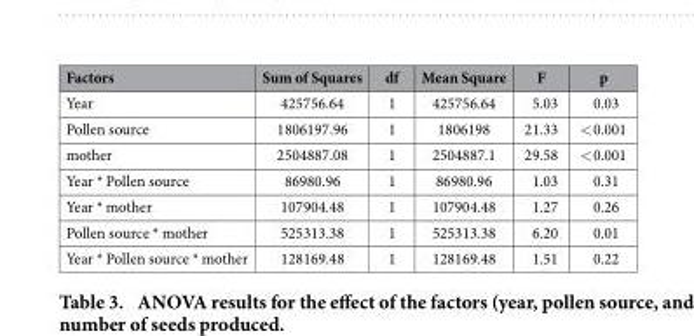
<table><thead><tr><td>Factors</td><td>Sum of Squares</td><td>df</td><td>Mean Square</td><td>F</td><td>p</td></tr></thead><tbody><tr><td>Year</td><td>425756.64</td><td>1</td><td>425756.64</td><td>5.03</td><td>0.03</td></tr><tr><td>Pollen source</td><td>1806197.96</td><td>1</td><td>1806198</td><td>21.33</td><td>&lt; 0.001</td></tr><tr><td>mother</td><td>2504887.08</td><td>1</td><td>2504887.1</td><td>29.58</td><td>&lt; 0.001</td></tr><tr><td>Year * Pollen source</td><td>86980.96</td><td>1</td><td>86980.96</td><td>1.03</td><td>0.31</td></tr><tr><td>Year * mother</td><td>107904.48</td><td>1</td><td>107904.48</td><td>1.27</td><td>0.26</td></tr><tr><td>Pollen source * mother</td><td>525313.38</td><td>1</td><td>525313.38</td><td>6.20</td><td>0.01</td></tr><tr><td>Year * Pollen source * mother</td><td>128169.48</td><td>1</td><td>128169.48</td><td>1.51</td><td>0.22</td></tr></tbody></table>